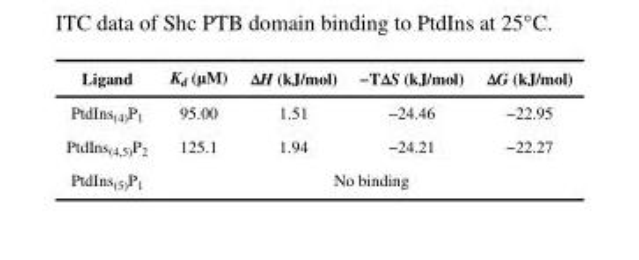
<table><thead><tr><td>Ligand</td><td>K<sub>d</sub> (μM)</td><td>ΔH (kJ/mol)</td><td>−TΔS (kJ/mol)</td><td>ΔG (kJ/mol)</td></tr></thead><tbody><tr><td>PtdIns<sub>(4)</sub>P<sub>1</sub></td><td>95.00</td><td>1.51</td><td>−24.46</td><td>−22.95</td></tr><tr><td>PtdIns<sub>(4,5)</sub>P<sub>2</sub></td><td>125.1</td><td>1.94</td><td>−24.21</td><td>−22.27</td></tr><tr><td>PtdIns<sub>(5)</sub>P<sub>1</sub></td><td colspan="4">No binding</td></tr></tbody></table>